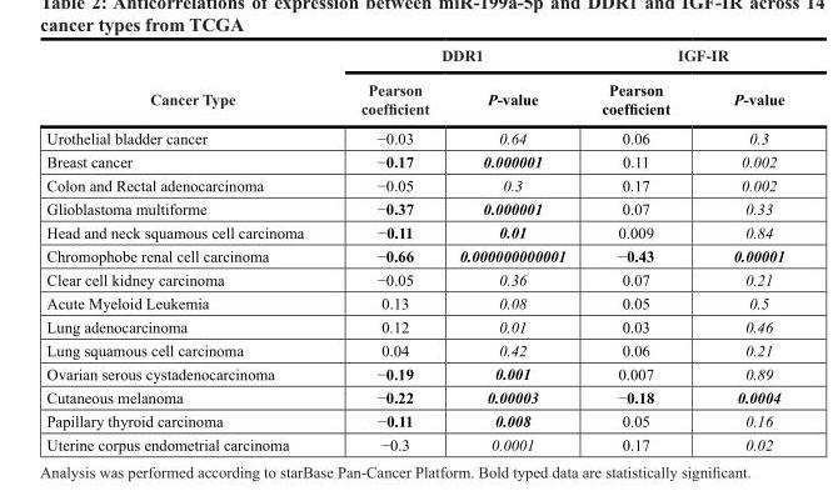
<table><thead><tr><td rowspan="2">Cancer Type</td><td colspan="2">DDR1</td><td colspan="2">IGF-IR</td></tr><tr><td>Pearson coefficient</td><td>P-value</td><td>Pearson coefficient</td><td>P-value</td></tr></thead><tbody><tr><td>Urothelial bladder cancer</td><td>−0.03</td><td>0.64</td><td>0.06</td><td>0.3</td></tr><tr><td>Breast cancer</td><td>−0.17</td><td>0.000001</td><td>0.11</td><td>0.002</td></tr><tr><td>Colon and Rectal adenocarcinoma</td><td>−0.05</td><td>0.3</td><td>0.17</td><td>0.002</td></tr><tr><td>Glioblastoma multiforme</td><td>−0.37</td><td>0.000001</td><td>0.07</td><td>0.33</td></tr><tr><td>Head and neck squamous cell carcinoma</td><td>−0.11</td><td>0.01</td><td>0.009</td><td>0.84</td></tr><tr><td>Chromophobe renal cell carcinoma</td><td>−0.66</td><td>0.000000000001</td><td>−0.43</td><td>0.00001</td></tr><tr><td>Clear cell kidney carcinoma</td><td>−0.05</td><td>0.36</td><td>0.07</td><td>0.21</td></tr><tr><td>Acute Myeloid Leukemia</td><td>0.13</td><td>0.08</td><td>0.05</td><td>0.5</td></tr><tr><td>Lung adenocarcinoma</td><td>0.12</td><td>0.01</td><td>0.03</td><td>0.46</td></tr><tr><td>Lung squamous cell carcinoma</td><td>0.04</td><td>0.42</td><td>0.06</td><td>0.21</td></tr><tr><td>Ovarian serous cystadenocarcinoma</td><td>−0.19</td><td>0.001</td><td>0.007</td><td>0.89</td></tr><tr><td>Cutaneous melanoma</td><td>−0.22</td><td>0.00003</td><td>−0.18</td><td>0.0004</td></tr><tr><td>Papillary thyroid carcinoma</td><td>−0.11</td><td>0.008</td><td>0.05</td><td>0.16</td></tr><tr><td>Uterine corpus endometrial carcinoma</td><td>−0.3</td><td>0.0001</td><td>0.17</td><td>0.02</td></tr></tbody></table>